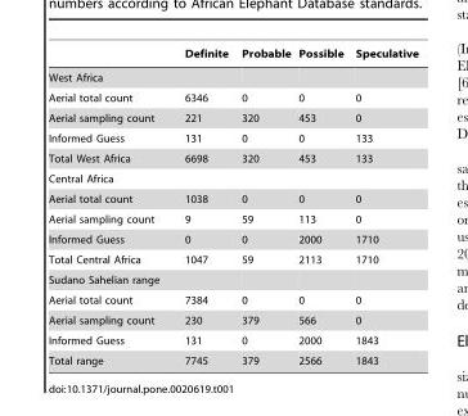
<table><thead><tr><td></td><td>Definite</td><td>Probable</td><td>Possible</td><td>Speculative</td></tr></thead><tbody><tr><td colspan="5">West Africa</td></tr><tr><td>Aerial total count</td><td>6346</td><td>0</td><td>0</td><td>0</td></tr><tr><td>Aerial sampling count</td><td>221</td><td>320</td><td>453</td><td>0</td></tr><tr><td>Informed Guess</td><td>131</td><td>0</td><td>0</td><td>133</td></tr><tr><td>Total West Africa</td><td>6698</td><td>320</td><td>453</td><td>133</td></tr><tr><td colspan="5">Central Africa</td></tr><tr><td>Aerial total count</td><td>1038</td><td>0</td><td>0</td><td>0</td></tr><tr><td>Aerial sampling count</td><td>9</td><td>59</td><td>113</td><td>0</td></tr><tr><td>Informed Guess</td><td>0</td><td>0</td><td>2000</td><td>1710</td></tr><tr><td>Total Central Africa</td><td>1047</td><td>59</td><td>2113</td><td>1710</td></tr><tr><td colspan="5">Sudano Sahelian range</td></tr><tr><td>Aerial total count</td><td>7384</td><td>0</td><td>0</td><td>0</td></tr><tr><td>Aerial sampling count</td><td>230</td><td>379</td><td>566</td><td>0</td></tr><tr><td>Informed Guess</td><td>131</td><td>0</td><td>2000</td><td>1843</td></tr><tr><td>Total range</td><td>7745</td><td>379</td><td>2566</td><td>1843</td></tr></tbody></table>